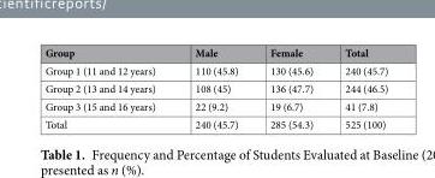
<table><thead><tr><td>Group</td><td>Male</td><td>Female</td><td>Total</td></tr></thead><tbody><tr><td>Group 1 (11 and 12 years)</td><td>110 (45.8)</td><td>130 (45.6)</td><td>240 (45.7)</td></tr><tr><td>Group 2 (13 and 14 years)</td><td>108 (45)</td><td>136 (47.7)</td><td>244 (46.5)</td></tr><tr><td>Group 3 (15 and 16 years)</td><td>22 (9.2)</td><td>19 (6.7)</td><td>41 (7.8)</td></tr><tr><td>Total</td><td>240 (45.7)</td><td>285 (54.3)</td><td>525 (100)</td></tr></tbody></table>